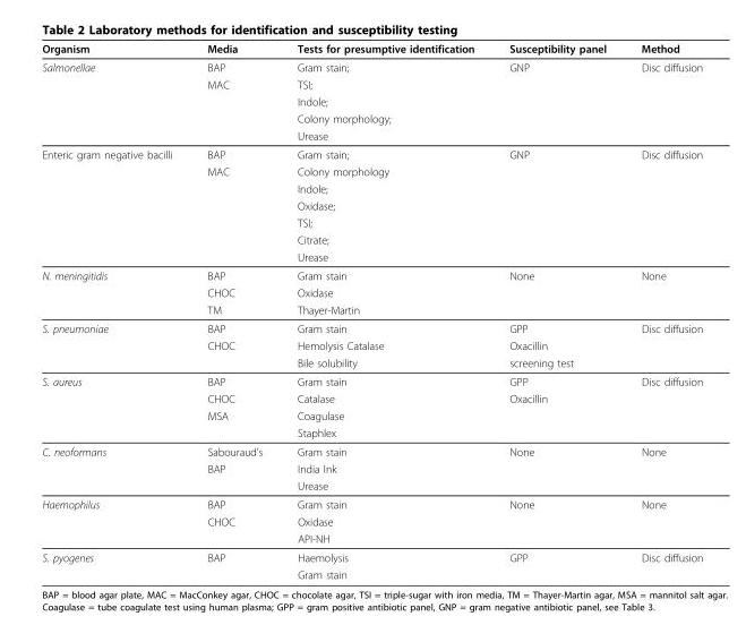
<table><thead><tr><td>Organism</td><td>Media</td><td>Tests for presumptive identification</td><td>Susceptibility panel</td><td>Method</td></tr></thead><tbody><tr><td rowspan="5">Salmonellae</td><td>BAP</td><td>Gram stain;</td><td>GNP</td><td>Disc diffusion</td></tr><tr><td>MAC</td><td>TSI;</td><td></td><td></td></tr><tr><td></td><td>Indole;</td><td></td><td></td></tr><tr><td></td><td>Colony morphology;</td><td></td><td></td></tr><tr><td></td><td>Urease</td><td></td><td></td></tr><tr><td rowspan="7">Enteric gram negative bacilli</td><td>BAP</td><td>Gram stain;</td><td>GNP</td><td>Disc diffusion</td></tr><tr><td>MAC</td><td>Colony morphology</td><td></td><td></td></tr><tr><td></td><td>Indole;</td><td></td><td></td></tr><tr><td></td><td>Oxidase;</td><td></td><td></td></tr><tr><td></td><td>TSI;</td><td></td><td></td></tr><tr><td></td><td>Citrate;</td><td></td><td></td></tr><tr><td></td><td>Urease</td><td></td><td></td></tr><tr><td rowspan="3">N. meningitidis</td><td>BAP</td><td>Gram stain</td><td>None</td><td>None</td></tr><tr><td>CHOC</td><td>Oxidase</td><td></td><td></td></tr><tr><td>TM</td><td>Thayer-Martin</td><td></td><td></td></tr><tr><td rowspan="3">S. pneumoniae</td><td>BAP</td><td>Gram stain</td><td>GPP</td><td>Disc diffusion</td></tr><tr><td>CHOC</td><td>Hemolysis Catalase</td><td>Oxacillin</td><td></td></tr><tr><td></td><td>Bile solubility</td><td>screening test</td><td></td></tr><tr><td rowspan="4">S. aureus</td><td>BAP</td><td>Gram stain</td><td>GPP</td><td>Disc diffusion</td></tr><tr><td>CHOC</td><td>Catalase</td><td>Oxacillin</td><td></td></tr><tr><td>MSA</td><td>Coagulase</td><td></td><td></td></tr><tr><td></td><td>Staphlex</td><td></td><td></td></tr><tr><td rowspan="3">C. neoformans</td><td>Sabouraud’s</td><td>Gram stain</td><td>None</td><td>None</td></tr><tr><td>BAP</td><td>India Ink</td><td></td><td></td></tr><tr><td></td><td>Urease</td><td></td><td></td></tr><tr><td rowspan="3">Haemophilus</td><td>BAP</td><td>Gram stain</td><td>None</td><td>None</td></tr><tr><td>CHOC</td><td>Oxidase</td><td></td><td></td></tr><tr><td></td><td>API-NH</td><td></td><td></td></tr><tr><td rowspan="2">S. pyogenes</td><td>BAP</td><td>Haemolysis</td><td>GPP</td><td>Disc diffusion</td></tr><tr><td></td><td>Gram stain</td><td></td><td></td></tr></tbody></table>